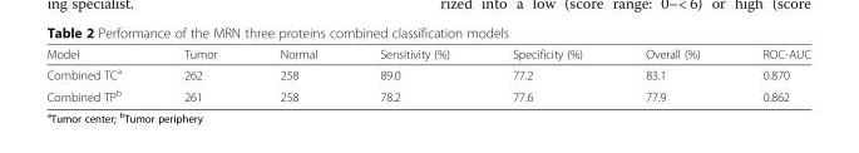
<table><thead><tr><td>Model</td><td>Tumor</td><td>Normal</td><td>Sensitivity (%)</td><td>Specificity (%)</td><td>Overall (%)</td><td>ROC-AUC</td></tr></thead><tbody><tr><td>Combined TC<sup>a</sup></td><td>262</td><td>258</td><td>89.0</td><td>77.2</td><td>83.1</td><td>0.870</td></tr><tr><td>Combined TP<sup>b</sup></td><td>261</td><td>258</td><td>78.2</td><td>77.6</td><td>77.9</td><td>0.862</td></tr></tbody></table>